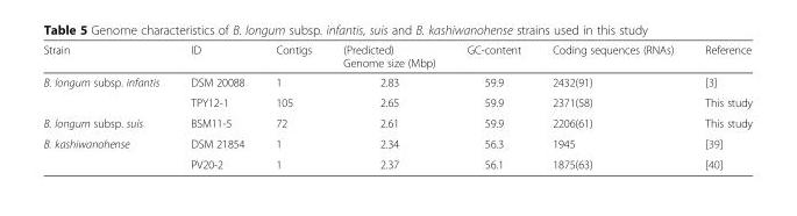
<table><thead><tr><td>Strain</td><td>ID</td><td>Contigs</td><td>(Predicted) Genome size (Mbp)</td><td>GC-content</td><td>Coding sequences (RNAs)</td><td>Reference</td></tr></thead><tbody><tr><td rowspan="2">B. longum subsp. infantis</td><td>DSM 20088</td><td>1</td><td>2.83</td><td>59.9</td><td>2432(91)</td><td>[3]</td></tr><tr><td>TPY12-1</td><td>105</td><td>2.65</td><td>59.9</td><td>2371(58)</td><td>This study</td></tr><tr><td>B. longum subsp. suis</td><td>BSM11-5</td><td>72</td><td>2.61</td><td>59.9</td><td>2206(61)</td><td>This study</td></tr><tr><td rowspan="2">B. kashiwanohense</td><td>DSM 21854</td><td>1</td><td>2.34</td><td>56.3</td><td>1945</td><td>[39]</td></tr><tr><td>PV20-2</td><td>1</td><td>2.37</td><td>56.1</td><td>1875(63)</td><td>[40]</td></tr></tbody></table>